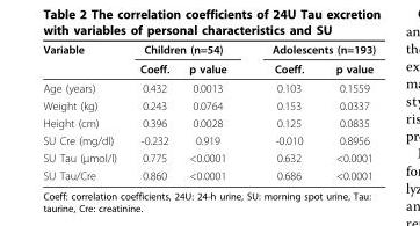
<table><thead><tr><td rowspan="2">Variable</td><td colspan="2">Children (n=54)</td><td colspan="2">Adolescents (n=193)</td></tr><tr><td>Coeff.</td><td>p value</td><td>Coeff.</td><td>p value</td></tr></thead><tbody><tr><td>Age (years)</td><td>0.432</td><td>0.0013</td><td>0.103</td><td>0.1559</td></tr><tr><td>Weight (kg)</td><td>0.243</td><td>0.0764</td><td>0.153</td><td>0.0337</td></tr><tr><td>Height (cm)</td><td>0.396</td><td>0.0028</td><td>0.125</td><td>0.0835</td></tr><tr><td>SU Cre (mg/dl)</td><td>-0.232</td><td>0.919</td><td>-0.010</td><td>0.8956</td></tr><tr><td>SU Tau (μmol/l)</td><td>0.775</td><td>&lt;0.0001</td><td>0.632</td><td>&lt;0.0001</td></tr><tr><td>SU Tau/Cre</td><td>0.860</td><td>&lt;0.0001</td><td>0.686</td><td>&lt;0.0001</td></tr></tbody></table>